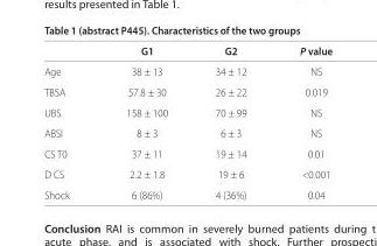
<table><thead><tr><td></td><td>G1</td><td>G2</td><td>P value</td></tr></thead><tbody><tr><td>Age</td><td>38 ± 13</td><td>34 ± 12</td><td>NS</td></tr><tr><td>TBSA</td><td>57.8 ± 30</td><td>26 ± 22</td><td>0.019</td></tr><tr><td>UBS</td><td>158 ± 100</td><td>70 ± 99</td><td>NS</td></tr><tr><td>ABSI</td><td>8 ± 3</td><td>6 ± 3</td><td>NS</td></tr><tr><td>CS T0</td><td>37 ± 11</td><td>19 ± 14</td><td>0.01</td></tr><tr><td>D CS</td><td>2.2 ± 1.8</td><td>19 ± 6</td><td>&lt;0.001</td></tr><tr><td>Shock</td><td>6 (86%)</td><td>4 (36%)</td><td>0.04</td></tr></tbody></table>